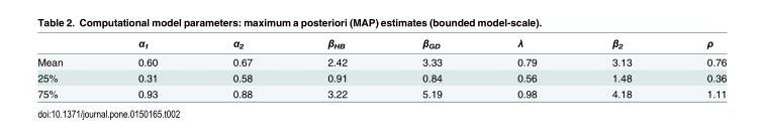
<table><thead><tr><td></td><td>α<sub>1</sub></td><td>α<sub>2</sub></td><td>β<sub>HB</sub></td><td>β<sub>GD</sub></td><td>λ</td><td>β<sub>2</sub></td><td>ρ</td></tr></thead><tbody><tr><td>Mean</td><td>0.60</td><td>0.67</td><td>2.42</td><td>3.33</td><td>0.79</td><td>3.13</td><td>0.76</td></tr><tr><td>25%</td><td>0.31</td><td>0.58</td><td>0.91</td><td>0.84</td><td>0.56</td><td>1.48</td><td>0.36</td></tr><tr><td>75%</td><td>0.93</td><td>0.88</td><td>3.22</td><td>5.19</td><td>0.98</td><td>4.18</td><td>1.11</td></tr></tbody></table>